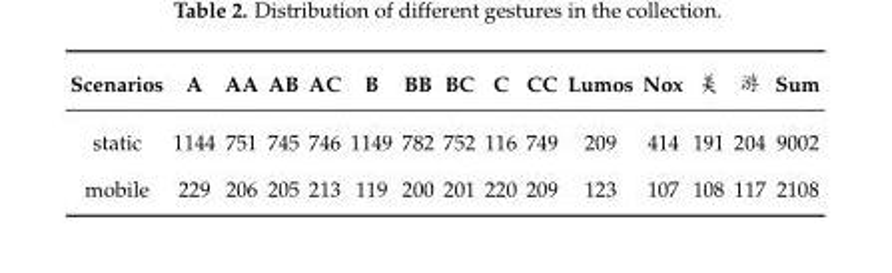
<table><thead><tr><td>Scenarios</td><td>A</td><td>AA</td><td>AB</td><td>AC</td><td>B</td><td>BB</td><td>BC</td><td>C</td><td>CC</td><td>Lumos</td><td>Nox</td><td>美</td><td>游</td><td>Sum</td></tr></thead><tbody><tr><td>static</td><td>1144</td><td>751</td><td>745</td><td>746</td><td>1149</td><td>782</td><td>752</td><td>116</td><td>749</td><td>209</td><td>414</td><td>191</td><td>204</td><td>9002</td></tr><tr><td>mobile</td><td>229</td><td>206</td><td>205</td><td>213</td><td>119</td><td>200</td><td>201</td><td>220</td><td>209</td><td>123</td><td>107</td><td>108</td><td>117</td><td>2108</td></tr></tbody></table>